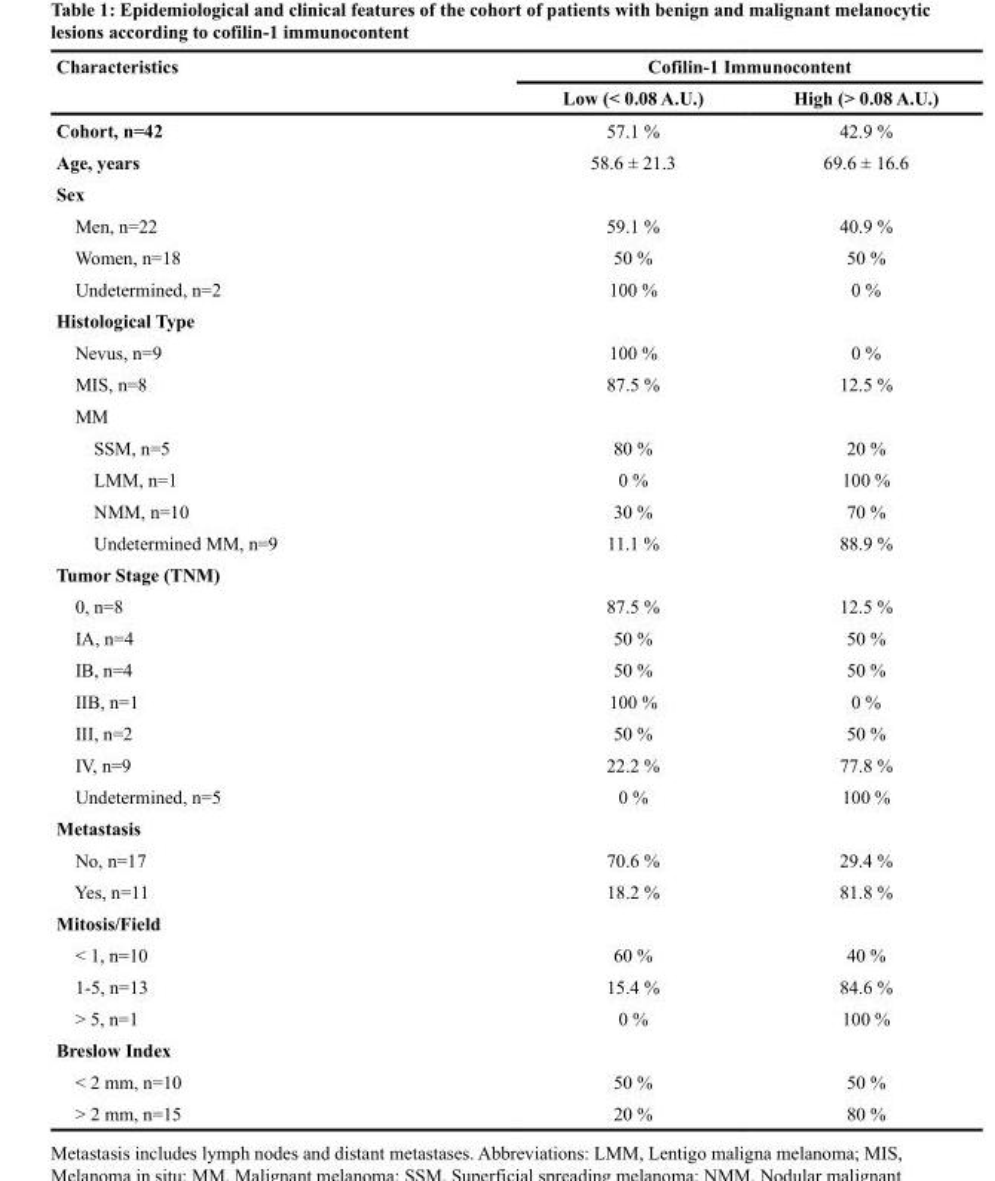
<table><thead><tr><td rowspan="2">Characteristics</td><td colspan="2">Cofilin-1 Immunocontent</td></tr><tr><td>Low (&lt; 0.08 A.U.)</td><td>High (&gt; 0.08 A.U.)</td></tr></thead><tbody><tr><td>Cohort, n=42</td><td>57.1 %</td><td>42.9 %</td></tr><tr><td>Age, years</td><td>58.6 ± 21.3</td><td>69.6 ± 16.6</td></tr><tr><td colspan="3">Sex</td></tr><tr><td>Men, n=22</td><td>59.1 %</td><td>40.9 %</td></tr><tr><td>Women, n=18</td><td>50 %</td><td>50 %</td></tr><tr><td>Undetermined, n=2</td><td>100 %</td><td>0 %</td></tr><tr><td colspan="3">Histological Type</td></tr><tr><td>Nevus, n=9</td><td>100 %</td><td>0 %</td></tr><tr><td>MIS, n=8</td><td>87.5 %</td><td>12.5 %</td></tr><tr><td colspan="3">MM</td></tr><tr><td>SSM, n=5</td><td>80 %</td><td>20 %</td></tr><tr><td>LMM, n=1</td><td>0 %</td><td>100 %</td></tr><tr><td>NMM, n=10</td><td>30 %</td><td>70 %</td></tr><tr><td>Undetermined MM, n=9</td><td>11.1 %</td><td>88.9 %</td></tr><tr><td colspan="3">Tumor Stage (TNM)</td></tr><tr><td>0, n=8</td><td>87.5 %</td><td>12.5 %</td></tr><tr><td>IA, n=4</td><td>50 %</td><td>50 %</td></tr><tr><td>IB, n=4</td><td>50 %</td><td>50 %</td></tr><tr><td>IIB, n=1</td><td>100 %</td><td>0 %</td></tr><tr><td>III, n=2</td><td>50 %</td><td>50 %</td></tr><tr><td>IV, n=9</td><td>22.2 %</td><td>77.8 %</td></tr><tr><td>Undetermined, n=5</td><td>0 %</td><td>100 %</td></tr><tr><td colspan="3">Metastasis</td></tr><tr><td>No, n=17</td><td>70.6 %</td><td>29.4 %</td></tr><tr><td>Yes, n=11</td><td>18.2 %</td><td>81.8 %</td></tr><tr><td colspan="3">Mitosis/Field</td></tr><tr><td>&lt; 1, n=10</td><td>60 %</td><td>40 %</td></tr><tr><td>1-5, n=13</td><td>15.4 %</td><td>84.6 %</td></tr><tr><td>&gt; 5, n=1</td><td>0 %</td><td>100 %</td></tr><tr><td colspan="3">Breslow Index</td></tr><tr><td>&lt; 2 mm, n=10</td><td>50 %</td><td>50 %</td></tr><tr><td>&gt; 2 mm, n=15</td><td>20 %</td><td>80 %</td></tr></tbody></table>